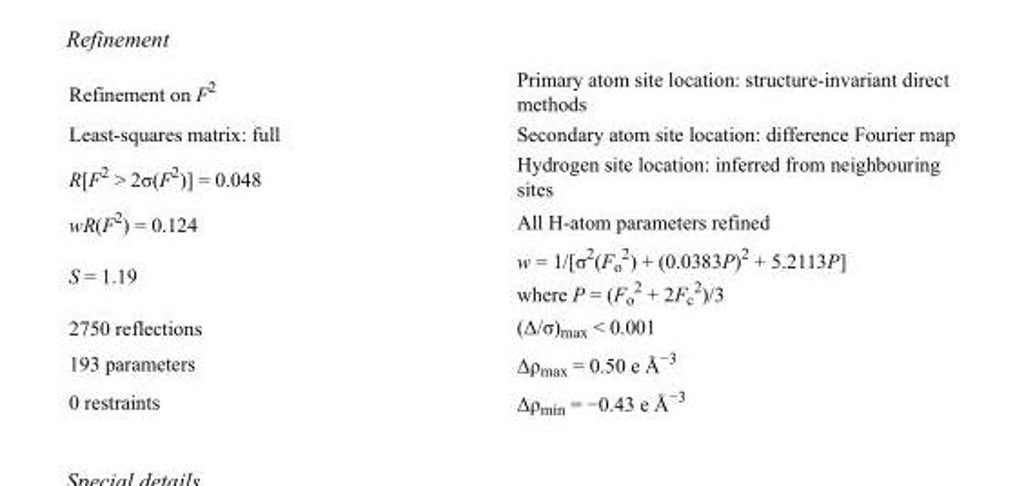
<table><tbody><tr><td>Refinement on F<sup>2</sup></td><td>Primary atom site location: structure-invariant direct methods</td></tr><tr><td>Least-squares matrix: full</td><td>Secondary atom site location: difference Fourier map</td></tr><tr><td>R[F<sup>2</sup> &gt; 2σ(F<sup>2</sup>)] = 0.048</td><td>Hydrogen site location: inferred from neighbouring sites</td></tr><tr><td>wR(F<sup>2</sup>) = 0.124</td><td>All H-atom parameters refined</td></tr><tr><td>S = 1.19</td><td>w = 1/[σ<sup>2</sup>(F<sub>o</sub> <sup>2</sup>) + (0.0383P)<sup>2</sup> + 5.2113P] where P = (F<sub>o</sub> <sup>2</sup> + 2F<sub>c</sub> <sup>2</sup>)/3</td></tr><tr><td>2750 reflections</td><td>(Δ/σ)<sub>max</sub> &lt; 0.001</td></tr><tr><td>193 parameters</td><td>Δρ<sub>max</sub> = 0.50 e Å<sup>−3</sup></td></tr><tr><td>0 restraints</td><td>Δρ<sub>min</sub> = −0.43 e Å<sup>−3</sup></td></tr></tbody></table>